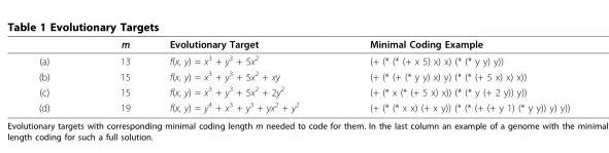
<table><thead><tr><td></td><td>m</td><td>Evolutionary Target</td><td>Minimal Coding Example</td></tr></thead><tbody><tr><td>(a)</td><td>13</td><td>f(x, y) = x<sup>3</sup> + y<sup>3</sup> + 5x<sup>2</sup></td><td>(+ (* (* (+ x 5) x) x) (* (* y y) y))</td></tr><tr><td>(b)</td><td>15</td><td>f(x, y) = x<sup>3</sup> + y<sup>3</sup> + 5x<sup>2</sup> + xy</td><td>(+ (* (+ (* y y) x) y) (* (* (+ 5 x) x) x))</td></tr><tr><td>(c)</td><td>15</td><td>f(x, y) = x<sup>3</sup> + y<sup>3</sup> + 5x<sup>2</sup> + 2y<sup>2</sup></td><td>(+ (* x (* (+ 5 x) x)) (* (* y (+ 2 y)) y))</td></tr><tr><td>(d)</td><td>19</td><td>f(x, y) = y<sup>4</sup> + x<sup>3</sup> + y<sup>3</sup> + yx<sup>2</sup> + y<sup>2</sup></td><td>(+ (* (* x x) (+ x y)) (* (* (+ (+ y 1) (* y y)) y) y))</td></tr></tbody></table>